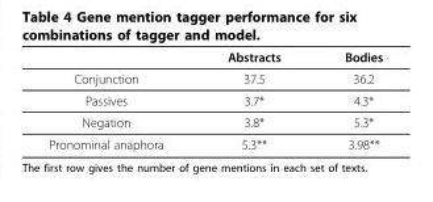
<table><thead><tr><td></td><td>Abstracts</td><td>Bodies</td></tr></thead><tbody><tr><td>Conjunction</td><td>37.5</td><td>36.2</td></tr><tr><td>Passives</td><td>3.7*</td><td>4.3*</td></tr><tr><td>Negation</td><td>3.8*</td><td>5.3*</td></tr><tr><td>Pronominal anaphora</td><td>5.3**</td><td>3.98**</td></tr></tbody></table>